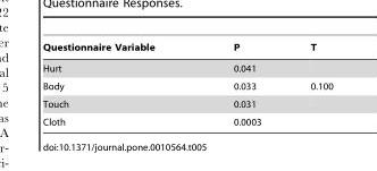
<table><thead><tr><td>Questionnaire Variable</td><td>P</td><td>T</td></tr></thead><tbody><tr><td>Hurt</td><td>0.041</td><td></td></tr><tr><td>Body</td><td>0.033</td><td>0.100</td></tr><tr><td>Touch</td><td>0.031</td><td></td></tr><tr><td>Cloth</td><td>0.0003</td><td></td></tr></tbody></table>